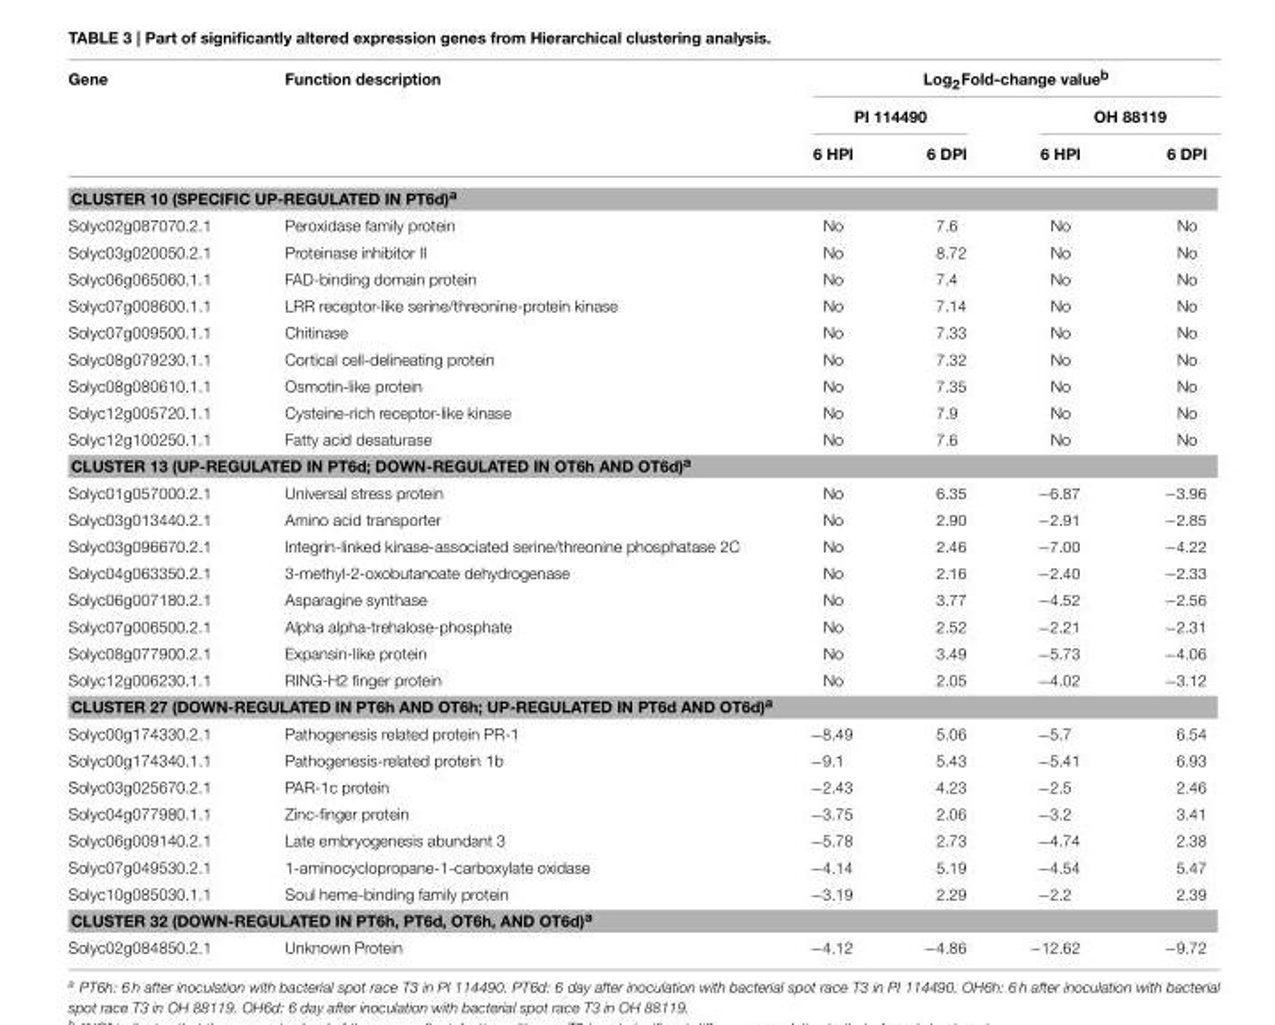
<table><thead><tr><td rowspan="3">Gene</td><td rowspan="3">Function description</td><td colspan="4">Log<sub>2</sub>Fold-change value<sup>b</sup></td></tr><tr><td colspan="2">PI 114490</td><td colspan="2">OH 88119</td></tr><tr><td>6 HPI</td><td>6 DPI</td><td>6 HPI</td><td>6 DPI</td></tr></thead><tbody><tr><td colspan="6">CLUSTER 10 (SPECIFIC UP-REGULATED IN PT6d)<sup>a</sup></td></tr><tr><td>Solyc02g087070.2.1</td><td>Peroxidase family protein</td><td>No</td><td>7.6</td><td>No</td><td>No</td></tr><tr><td>Solyc03g020050.2.1</td><td>Proteinase inhibitor II</td><td>No</td><td>8.72</td><td>No</td><td>No</td></tr><tr><td>Solyc06g065060.1.1</td><td>FAD-binding domain protein</td><td>No</td><td>7.4</td><td>No</td><td>No</td></tr><tr><td>Solyc07g008600.1.1</td><td>LRR receptor-like serine/threonine-protein kinase</td><td>No</td><td>7.14</td><td>No</td><td>No</td></tr><tr><td>Solyc07g009500.1.1</td><td>Chitinase</td><td>No</td><td>7.33</td><td>No</td><td>No</td></tr><tr><td>Solyc08g079230.1.1</td><td>Cortical cell-delineating protein</td><td>No</td><td>7.32</td><td>No</td><td>No</td></tr><tr><td>Solyc08g080610.1.1</td><td>Osmotin-like protein</td><td>No</td><td>7.35</td><td>No</td><td>No</td></tr><tr><td>Solyc12g005720.1.1</td><td>Cysteine-rich receptor-like kinase</td><td>No</td><td>7.9</td><td>No</td><td>No</td></tr><tr><td>Solyc12g100250.1.1</td><td>Fatty acid desaturase</td><td>No</td><td>7.6</td><td>No</td><td>No</td></tr><tr><td colspan="6">CLUSTER 13 (UP-REGULATED IN PT6d; DOWN-REGULATED IN OT6h AND OT6d)<sup>a</sup></td></tr><tr><td>Solyc01g057000.2.1</td><td>Universal stress protein</td><td>No</td><td>6.35</td><td>−6.87</td><td>−3.96</td></tr><tr><td>Solyc03g013440.2.1</td><td>Amino acid transporter</td><td>No</td><td>2.90</td><td>−2.91</td><td>−2.85</td></tr><tr><td>Solyc03g096670.2.1</td><td>Integrin-linked kinase-associated serine/threonine phosphatase 2C</td><td>No</td><td>2.46</td><td>−7.00</td><td>−4.22</td></tr><tr><td>Solyc04g063350.2.1</td><td>3-methyl-2-oxobutanoate dehydrogenase</td><td>No</td><td>2.16</td><td>−2.40</td><td>−2.33</td></tr><tr><td>Solyc06g007180.2.1</td><td>Asparagine synthase</td><td>No</td><td>3.77</td><td>−4.52</td><td>−2.56</td></tr><tr><td>Solyc07g006500.2.1</td><td>Alpha alpha-trehalose-phosphate</td><td>No</td><td>2.52</td><td>−2.21</td><td>−2.31</td></tr><tr><td>Solyc08g077900.2.1</td><td>Expansin-like protein</td><td>No</td><td>3.49</td><td>−5.73</td><td>−4.06</td></tr><tr><td>Solyc12g006230.1.1</td><td>RING-H2 finger protein</td><td>No</td><td>2.05</td><td>−4.02</td><td>−3.12</td></tr><tr><td colspan="6">CLUSTER 27 (DOWN-REGULATED IN PT6h AND OT6h; UP-REGULATED IN PT6d AND OT6d)<sup>a</sup></td></tr><tr><td>Solyc00g174330.2.1</td><td>Pathogenesis related protein PR-1</td><td>−8.49</td><td>5.06</td><td>−5.7</td><td>6.54</td></tr><tr><td>Solyc00g174340.1.1</td><td>Pathogenesis-related protein 1b</td><td>−9.1</td><td>5.43</td><td>−5.41</td><td>6.93</td></tr><tr><td>Solyc03g025670.2.1</td><td>PAR-1c protein</td><td>−2.43</td><td>4.23</td><td>−2.5</td><td>2.46</td></tr><tr><td>Solyc04g077980.1.1</td><td>Zinc-finger protein</td><td>−3.75</td><td>2.06</td><td>−3.2</td><td>3.41</td></tr><tr><td>Solyc06g009140.2.1</td><td>Late embryogenesis abundant 3</td><td>−5.78</td><td>2.73</td><td>−4.74</td><td>2.38</td></tr><tr><td>Solyc07g049530.2.1</td><td>1-aminocyclopropane-1-carboxylate oxidase</td><td>−4.14</td><td>5.19</td><td>−4.54</td><td>5.47</td></tr><tr><td>Solyc10g085030.1.1</td><td>Soul heme-binding family protein</td><td>−3.19</td><td>2.29</td><td>−2.2</td><td>2.39</td></tr><tr><td colspan="6">CLUSTER 32 (DOWN-REGULATED IN PT6h, PT6d, OT6h, AND OT6d)<sup>a</sup></td></tr><tr><td>Solyc02g084850.2.1</td><td>Unknown Protein</td><td>−4.12</td><td>−4.86</td><td>−12.62</td><td>−9.72</td></tr></tbody></table>